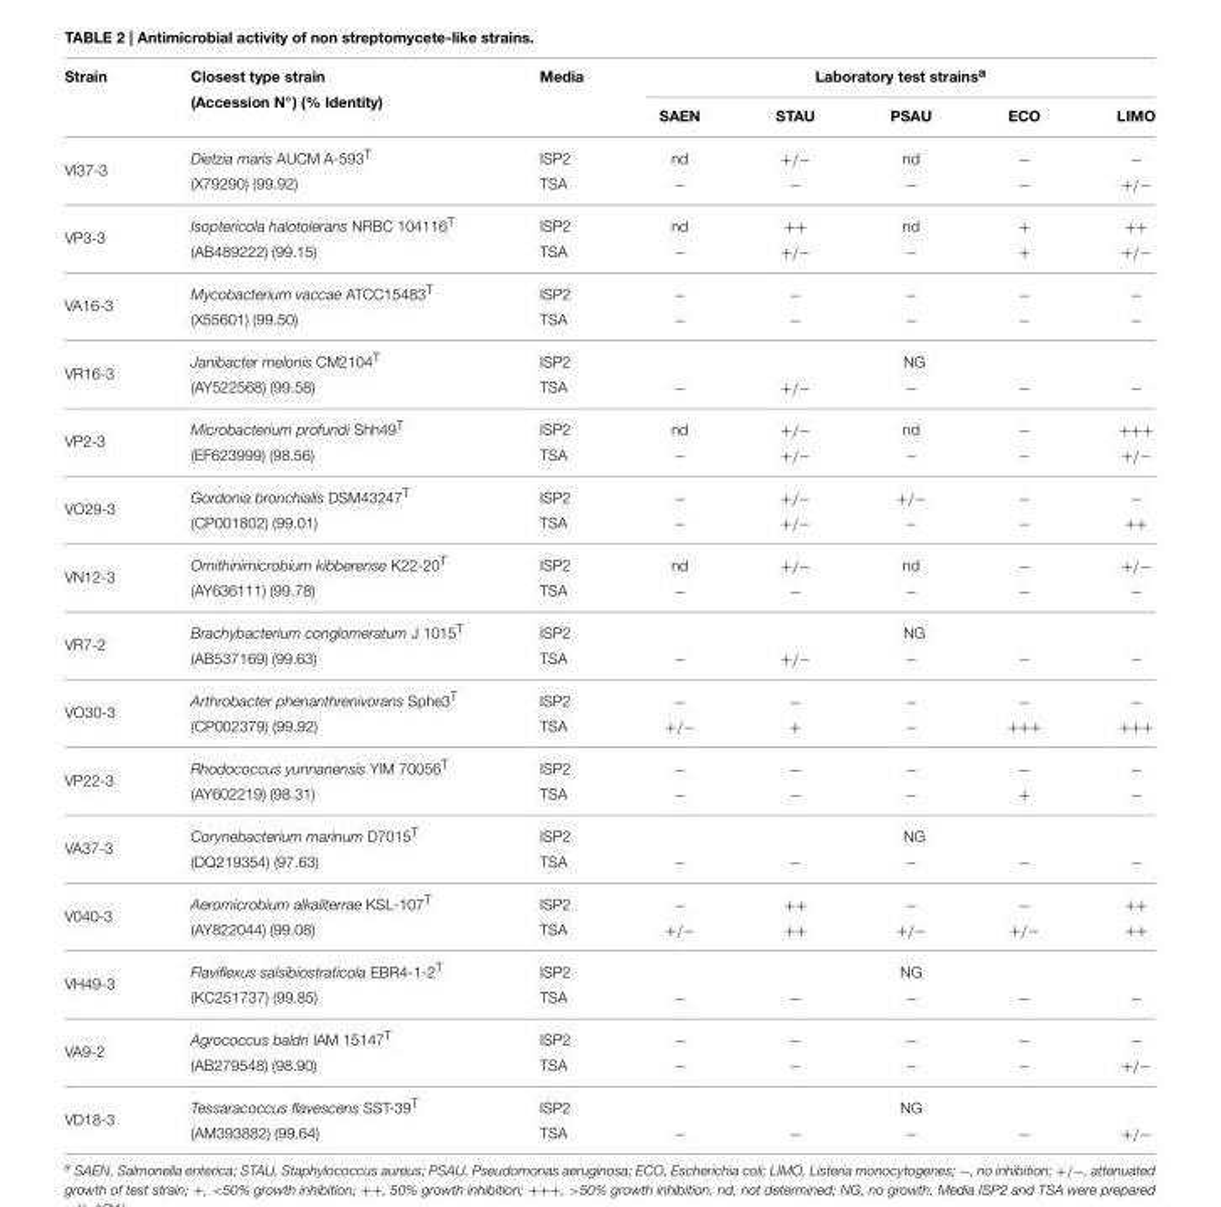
<table><thead><tr><td rowspan="2">Strain</td><td rowspan="2">Closest type strain (Accession N◦) (% Identity)</td><td rowspan="2">Media</td><td colspan="5">Laboratory test strains<sup>a</sup></td></tr><tr><td>SAEN</td><td>STAU</td><td>PSAU</td><td>ECO</td><td>LIMO</td></tr></thead><tbody><tr><td rowspan="2">VI37-3</td><td>Dietzia maris AUCM A-593<sup>T</sup></td><td>ISP2</td><td>nd</td><td>+/−</td><td>nd</td><td>−</td><td>−</td></tr><tr><td>(X79290) (99.92)</td><td>TSA</td><td>−</td><td>−</td><td>−</td><td>−</td><td>+/−</td></tr><tr><td rowspan="2">VP3-3</td><td>Isoptericola halotolerans NRBC 104116<sup>T</sup></td><td>ISP2</td><td>nd</td><td>++</td><td>nd</td><td>+</td><td>++</td></tr><tr><td>(AB489222) (99.15)</td><td>TSA</td><td>−</td><td>+/−</td><td>−</td><td>+</td><td>+/−</td></tr><tr><td rowspan="2">VA16-3</td><td>Mycobacterium vaccae ATCC15483<sup>T</sup></td><td>ISP2</td><td>−</td><td>−</td><td>−</td><td>−</td><td>−</td></tr><tr><td>(X55601) (99.50)</td><td>TSA</td><td>−</td><td>−</td><td>−</td><td>−</td><td>−</td></tr><tr><td rowspan="2">VR16-3</td><td>Janibacter melonis CM2104<sup>T</sup></td><td>ISP2</td><td colspan="5">NG</td></tr><tr><td>(AY522568) (99.58)</td><td>TSA</td><td>−</td><td>+/−</td><td>−</td><td>−</td><td>−</td></tr><tr><td rowspan="2">VP2-3</td><td>Microbacterium profundi Shh49<sup>T</sup></td><td>ISP2</td><td>nd</td><td>+/−</td><td>nd</td><td>−</td><td>+++</td></tr><tr><td>(EF623999) (98.56)</td><td>TSA</td><td>−</td><td>+/−</td><td>−</td><td>−</td><td>+/−</td></tr><tr><td rowspan="2">VO29-3</td><td>Gordonia bronchialis DSM43247<sup>T</sup></td><td>ISP2</td><td>−</td><td>+/−</td><td>+/−</td><td>−</td><td>−</td></tr><tr><td>(CP001802) (99.01)</td><td>TSA</td><td>−</td><td>+/−</td><td>−</td><td>−</td><td>++</td></tr><tr><td rowspan="2">VN12-3</td><td>Ornithinimicrobium kibberense K22-20<sup>T</sup></td><td>ISP2</td><td>nd</td><td>+/−</td><td>nd</td><td>−</td><td>+/−</td></tr><tr><td>(AY636111) (99.78)</td><td>TSA</td><td>−</td><td>−</td><td>−</td><td>−</td><td>−</td></tr><tr><td rowspan="2">VR7-2</td><td>Brachybacterium conglomeratum J 1015<sup>T</sup></td><td>ISP2</td><td colspan="5">NG</td></tr><tr><td>(AB537169) (99.63)</td><td>TSA</td><td>−</td><td>+/−</td><td>−</td><td>−</td><td>−</td></tr><tr><td rowspan="2">VO30-3</td><td>Arthrobacter phenanthrenivorans Sphe3<sup>T</sup></td><td>ISP2</td><td>−</td><td>−</td><td>−</td><td>−</td><td>−</td></tr><tr><td>(CP002379) (99.92)</td><td>TSA</td><td>+/−</td><td>+</td><td>−</td><td>+++</td><td>+++</td></tr><tr><td rowspan="2">VP22-3</td><td>Rhodococcus yunnanensis YIM 70056<sup>T</sup></td><td>ISP2</td><td>−</td><td>−</td><td>−</td><td>−</td><td>−</td></tr><tr><td>(AY602219) (98.31)</td><td>TSA</td><td>−</td><td>−</td><td>−</td><td>+</td><td>−</td></tr><tr><td rowspan="2">VA37-3</td><td>Corynebacterium marinum D7015<sup>T</sup></td><td>ISP2</td><td colspan="5">NG</td></tr><tr><td>(DQ219354) (97.63)</td><td>TSA</td><td>−</td><td>−</td><td>−</td><td>−</td><td>−</td></tr><tr><td rowspan="2">V040-3</td><td>Aeromicrobium alkaliterrae KSL-107<sup>T</sup></td><td>ISP2</td><td>−</td><td>++</td><td>−</td><td>−</td><td>++</td></tr><tr><td>(AY822044) (99.08)</td><td>TSA</td><td>+/−</td><td>++</td><td>+/−</td><td>+/−</td><td>++</td></tr><tr><td rowspan="2">VH49-3</td><td>Flaviflexus salsibiostraticola EBR4-1-2<sup>T</sup></td><td>ISP2</td><td></td><td></td><td>NG</td><td></td><td></td></tr><tr><td>(KC251737) (99.85)</td><td>TSA</td><td>−</td><td>−</td><td>−</td><td>−</td><td>−</td></tr><tr><td rowspan="2">VA9-2</td><td>Agrococcus baldri IAM 15147<sup>T</sup></td><td>ISP2</td><td>−</td><td>−</td><td>−</td><td>−</td><td>−</td></tr><tr><td>(AB279548) (98.90)</td><td>TSA</td><td>−</td><td>−</td><td>−</td><td>−</td><td>+/−</td></tr><tr><td rowspan="2">VD18-3</td><td>Tessaracoccus flavescens SST-39<sup>T</sup></td><td>ISP2</td><td></td><td></td><td>NG</td><td></td><td></td></tr><tr><td>(AM393882) (99.64)</td><td>TSA</td><td>−</td><td>−</td><td>−</td><td>−</td><td>+/−</td></tr></tbody></table>